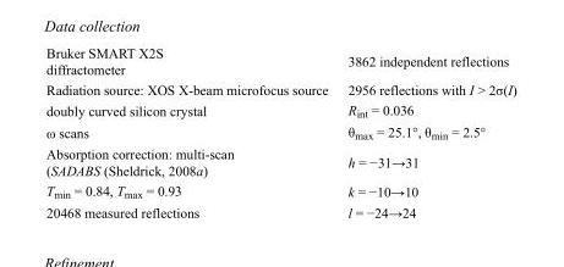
<table><tbody><tr><td>Bruker SMART X2S diffractometer</td><td>3862 independent reflections</td></tr><tr><td>Radiation source: XOS X-beam microfocus source</td><td>2956 reflections with I &gt; 2σ(I)</td></tr><tr><td>doubly curved silicon crystal</td><td>R<sub>int</sub> = 0.036</td></tr><tr><td>ω scans</td><td>θ<sub>max</sub> = 25.1°, θ<sub>min</sub> = 2.5°</td></tr><tr><td>Absorption correction: multi-scan (SADABS (Sheldrick, 2008a)</td><td>h = −31→31</td></tr><tr><td>T<sub>min</sub> = 0.84, T<sub>max</sub> = 0.93</td><td>k = −10→10</td></tr><tr><td>20468 measured reflections</td><td>l = −24→24</td></tr></tbody></table>